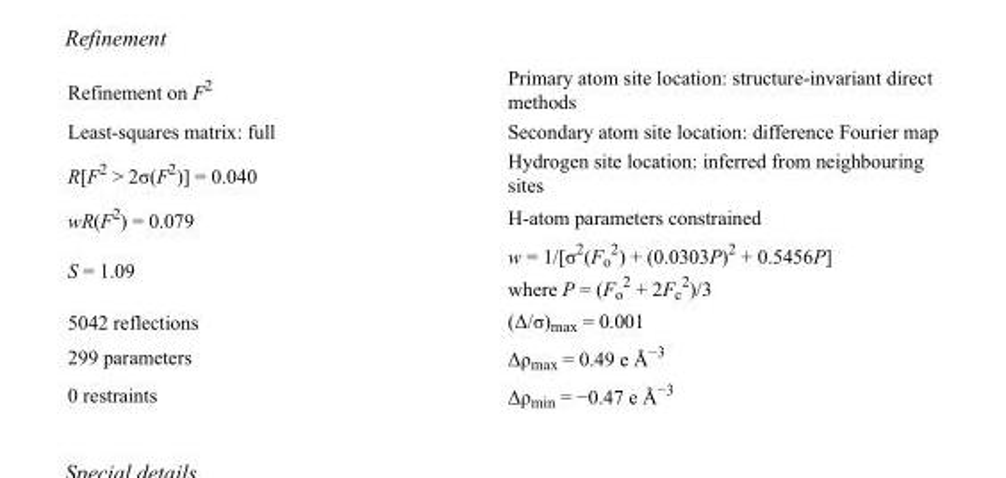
<table><tbody><tr><td>Refinement on F<sup>2</sup></td><td>Primary atom site location: structure-invariant direct methods</td></tr><tr><td>Least-squares matrix: full</td><td>Secondary atom site location: difference Fourier map</td></tr><tr><td>R[F<sup>2</sup> &gt; 2σ(F<sup>2</sup>)] = 0.040</td><td>Hydrogen site location: inferred from neighbouring sites</td></tr><tr><td>wR(F<sup>2</sup>) = 0.079</td><td>H-atom parameters constrained</td></tr><tr><td>S = 1.09</td><td>w = 1/[σ<sup>2</sup>(F<sub>o</sub> <sup>2</sup>) + (0.0303P)<sup>2</sup> + 0.5456P] where P = (F<sub>o</sub> <sup>2</sup> + 2F<sub>c</sub> <sup>2</sup>)/3</td></tr><tr><td>5042 reflections</td><td>(Δ/σ)<sub>max</sub> = 0.001</td></tr><tr><td>299 parameters</td><td>Δρ<sub>max</sub> = 0.49 e Å<sup>−3</sup></td></tr><tr><td>0 restraints</td><td>Δρ<sub>min</sub> = −0.47 e Å<sup>−3</sup></td></tr></tbody></table>